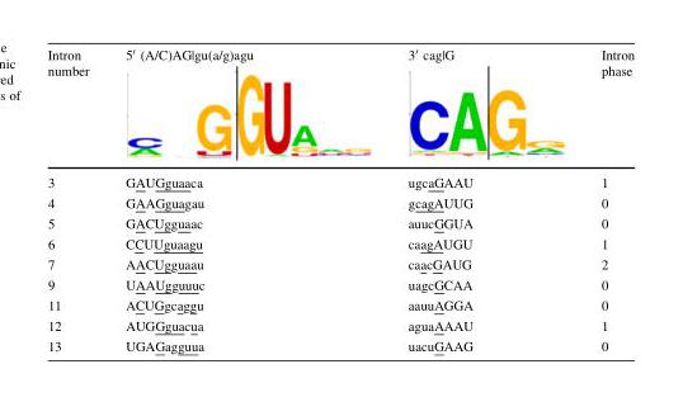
<table><thead><tr><td>Intron number</td><td>5′ (A/C)AG|gu(a/g)agu</td><td>3′ cag|G</td><td>Intron phase</td></tr></thead><tbody><tr><td>3</td><td>GAUGguaaca</td><td>ugcaGAAU</td><td>1</td></tr><tr><td>4</td><td>GAAGguagau</td><td>gcagAUUG</td><td>0</td></tr><tr><td>5</td><td>GACUgguaac</td><td>auucGGUA</td><td>0</td></tr><tr><td>6</td><td>CCUUguaagu</td><td>caagAUGU</td><td>1</td></tr><tr><td>7</td><td>AACUgguaau</td><td>caacGAUG</td><td>2</td></tr><tr><td>9</td><td>UAAUgguuuc</td><td>uagcGCAA</td><td>0</td></tr><tr><td>11</td><td>ACUGgcaggu</td><td>aauuAGGA</td><td>0</td></tr><tr><td>12</td><td>AUGGguacua</td><td>aguaAAAU</td><td>1</td></tr><tr><td>13</td><td>UGAGagguua</td><td>uacuGAAG</td><td>0</td></tr></tbody></table>